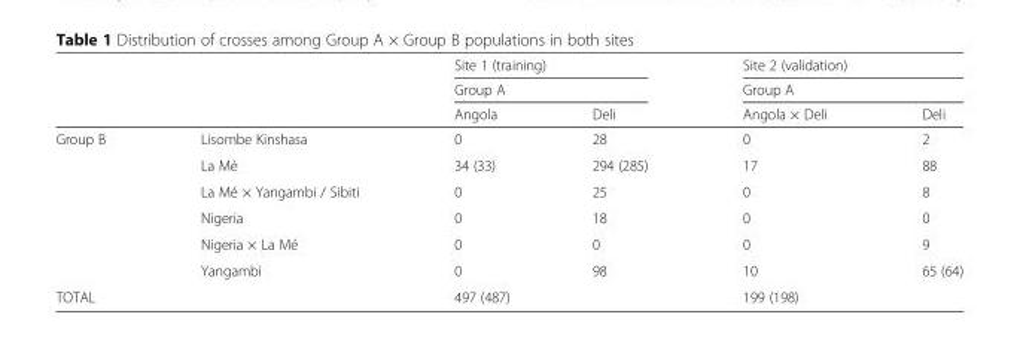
<table><thead><tr><td rowspan="3"></td><td rowspan="3"></td><td rowspan="2" colspan="2">Site 1 (training) Group A</td><td rowspan="2" colspan="2">Site 2 (validation) Group A</td></tr><tr></tr><tr><td>Angola</td><td>Deli</td><td>Angola × Deli</td><td>Deli</td></tr></thead><tbody><tr><td rowspan="6">Group B</td><td>Lisombe Kinshasa</td><td>0</td><td>28</td><td>0</td><td>2</td></tr><tr><td>La Mé</td><td>34 (33)</td><td>294 (285)</td><td>17</td><td>88</td></tr><tr><td>La Mé × Yangambi / Sibiti</td><td>0</td><td>25</td><td>0</td><td>8</td></tr><tr><td>Nigeria</td><td>0</td><td>18</td><td>0</td><td>0</td></tr><tr><td>Nigeria × La Mé</td><td>0</td><td>0</td><td>0</td><td>9</td></tr><tr><td>Yangambi</td><td>0</td><td>98</td><td>10</td><td>65 (64)</td></tr><tr><td>TOTAL</td><td></td><td colspan="2">497 (487)</td><td colspan="2">199 (198)</td></tr></tbody></table>